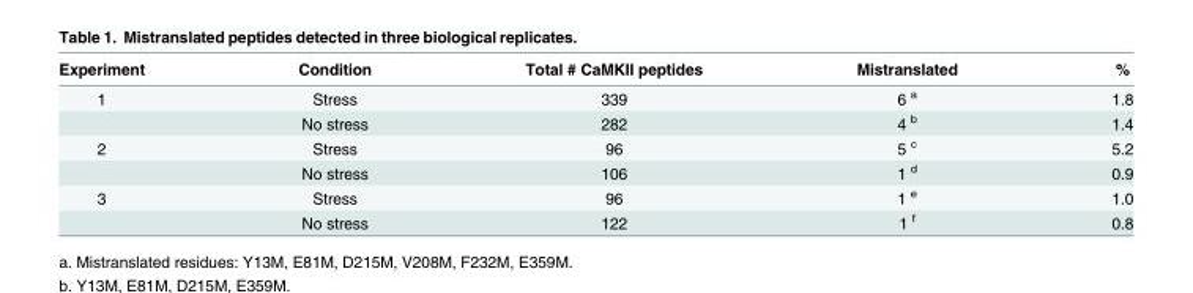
<table><thead><tr><td>Experiment</td><td>Condition</td><td>Total # CaMKII peptides</td><td>Mistranslated</td><td>%</td></tr></thead><tbody><tr><td rowspan="2">1</td><td>Stress</td><td>339</td><td>6 <sup>a</sup></td><td>1.8</td></tr><tr><td>No stress</td><td>282</td><td>4 <sup>b</sup></td><td>1.4</td></tr><tr><td rowspan="2">2</td><td>Stress</td><td>96</td><td>5 <sup>c</sup></td><td>5.2</td></tr><tr><td>No stress</td><td>106</td><td>1 <sup>d</sup></td><td>0.9</td></tr><tr><td rowspan="2">3</td><td>Stress</td><td>96</td><td>1 <sup>e</sup></td><td>1.0</td></tr><tr><td>No stress</td><td>122</td><td>1 <sup>f</sup></td><td>0.8</td></tr></tbody></table>